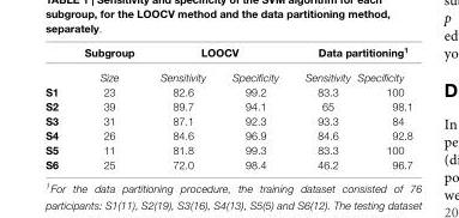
<table><thead><tr><td rowspan="2"></td><td rowspan="2">Subgroup Size</td><td colspan="2">LOOCV</td><td colspan="2">Data partitioning<sup>1</sup></td></tr><tr><td>Sensitivity</td><td>Specificity</td><td>Sensitivity</td><td>Specificity</td></tr></thead><tbody><tr><td>S1</td><td>23</td><td>82.6</td><td>99.2</td><td>83.3</td><td>100</td></tr><tr><td>S2</td><td>39</td><td>89.7</td><td>94.1</td><td>65</td><td>98.1</td></tr><tr><td>S3</td><td>31</td><td>87.1</td><td>92.3</td><td>93.3</td><td>84</td></tr><tr><td>S4</td><td>26</td><td>84.6</td><td>96.9</td><td>84.6</td><td>92.8</td></tr><tr><td>S5</td><td>11</td><td>81.8</td><td>99.3</td><td>83.3</td><td>100</td></tr><tr><td>S6</td><td>25</td><td>72.0</td><td>98.4</td><td>46.2</td><td>96.7</td></tr></tbody></table>